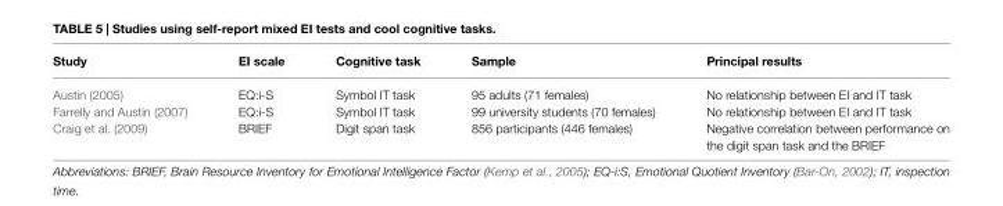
<table><thead><tr><td>Study</td><td>EI scale</td><td>Cognitive task</td><td>Sample</td><td>Principal results</td></tr></thead><tbody><tr><td>Austin (2005)</td><td>EQ:i-S</td><td>Symbol IT task</td><td>95 adults (71 females)</td><td>No relationship between EI and IT task</td></tr><tr><td>Farrelly and Austin (2007)</td><td>EQ:i-S</td><td>Symbol IT task</td><td>99 university students (70 females)</td><td>No relationship between EI and IT task</td></tr><tr><td>Craig et al. (2009)</td><td>BRIEF</td><td>Digit span task</td><td>856 participants (446 females)</td><td>Negative correlation between performance on the digit span task and the BRIEF</td></tr></tbody></table>